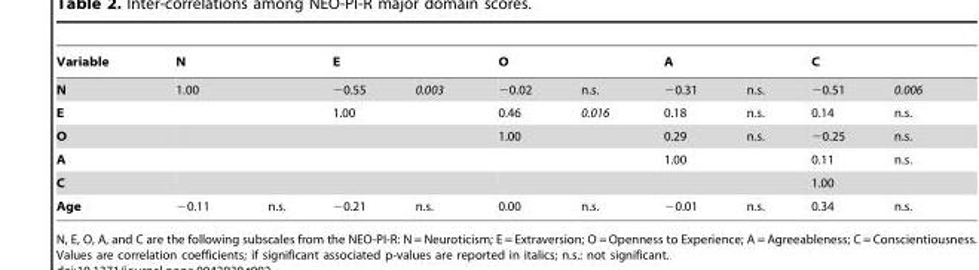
<table><thead><tr><td>Variable</td><td colspan="2">N</td><td colspan="2">E</td><td colspan="2">O</td><td colspan="2">A</td><td colspan="2">C</td></tr></thead><tbody><tr><td>N</td><td colspan="2">1.00</td><td>−0.55</td><td>0.003</td><td>−0.02</td><td>n.s.</td><td>−0.31</td><td>n.s.</td><td>−0.51</td><td>0.006</td></tr><tr><td>E</td><td colspan="2"></td><td colspan="2">1.00</td><td>0.46</td><td>0.016</td><td>0.18</td><td>n.s.</td><td>0.14</td><td>n.s.</td></tr><tr><td>O</td><td colspan="2"></td><td colspan="2"></td><td colspan="2">1.00</td><td>0.29</td><td>n.s.</td><td>−0.25</td><td>n.s.</td></tr><tr><td>A</td><td colspan="2"></td><td colspan="2"></td><td colspan="2"></td><td colspan="2">1.00</td><td>0.11</td><td>n.s.</td></tr><tr><td>C</td><td colspan="2"></td><td colspan="2"></td><td colspan="2"></td><td colspan="2"></td><td colspan="2">1.00</td></tr><tr><td>Age</td><td>−0.11</td><td>n.s.</td><td>−0.21</td><td>n.s.</td><td>0.00</td><td>n.s.</td><td>−0.01</td><td>n.s.</td><td>0.34</td><td>n.s.</td></tr></tbody></table>